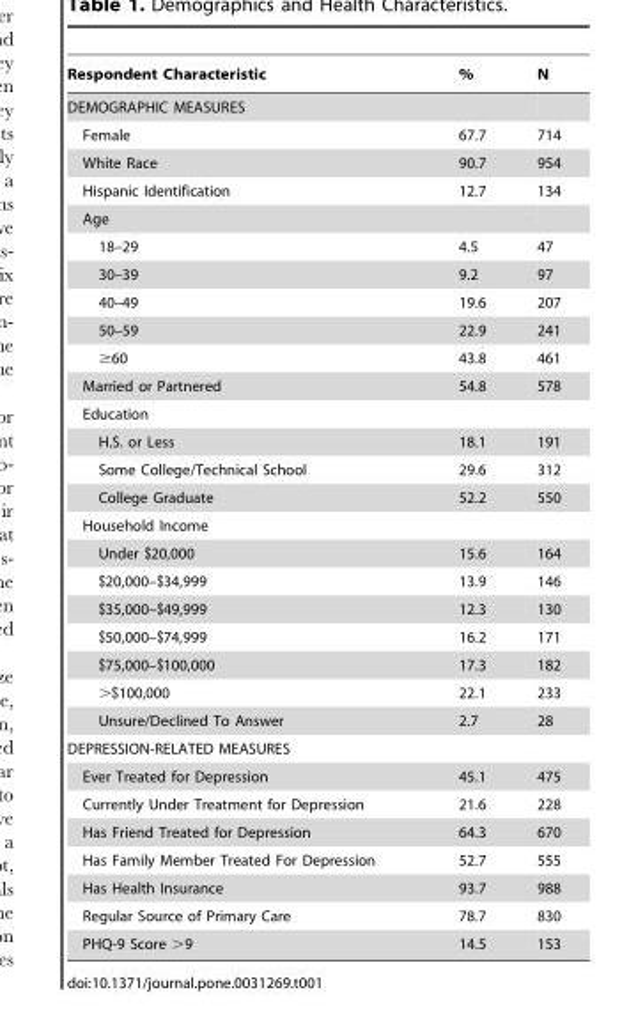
<table><thead><tr><td>Respondent Characteristic</td><td>%</td><td>N</td></tr></thead><tbody><tr><td colspan="3">DEMOGRAPHIC MEASURES</td></tr><tr><td>Female</td><td>67.7</td><td>714</td></tr><tr><td>White Race</td><td>90.7</td><td>954</td></tr><tr><td>Hispanic Identification</td><td>12.7</td><td>134</td></tr><tr><td colspan="3">Age</td></tr><tr><td>18–29</td><td>4.5</td><td>47</td></tr><tr><td>30–39</td><td>9.2</td><td>97</td></tr><tr><td>40–49</td><td>19.6</td><td>207</td></tr><tr><td>50–59</td><td>22.9</td><td>241</td></tr><tr><td>≥60</td><td>43.8</td><td>461</td></tr><tr><td>Married or Partnered</td><td>54.8</td><td>578</td></tr><tr><td colspan="3">Education</td></tr><tr><td>H.S. or Less</td><td>18.1</td><td>191</td></tr><tr><td>Some College/Technical School</td><td>29.6</td><td>312</td></tr><tr><td>College Graduate</td><td>52.2</td><td>550</td></tr><tr><td colspan="3">Household Income</td></tr><tr><td>Under $20,000</td><td>15.6</td><td>164</td></tr><tr><td>$20,000–$34,999</td><td>13.9</td><td>146</td></tr><tr><td>$35,000–$49,999</td><td>12.3</td><td>130</td></tr><tr><td>$50,000–$74,999</td><td>16.2</td><td>171</td></tr><tr><td>$75,000–$100,000</td><td>17.3</td><td>182</td></tr><tr><td>&gt;$100,000</td><td>22.1</td><td>233</td></tr><tr><td>Unsure/Declined To Answer</td><td>2.7</td><td>28</td></tr><tr><td colspan="3">DEPRESSION-RELATED MEASURES</td></tr><tr><td>Ever Treated for Depression</td><td>45.1</td><td>475</td></tr><tr><td>Currently Under Treatment for Depression</td><td>21.6</td><td>228</td></tr><tr><td>Has Friend Treated for Depression</td><td>64.3</td><td>670</td></tr><tr><td>Has Family Member Treated For Depression</td><td>52.7</td><td>555</td></tr><tr><td>Has Health Insurance</td><td>93.7</td><td>988</td></tr><tr><td>Regular Source of Primary Care</td><td>78.7</td><td>830</td></tr><tr><td>PHQ-9 Score &gt;9</td><td>14.5</td><td>153</td></tr></tbody></table>